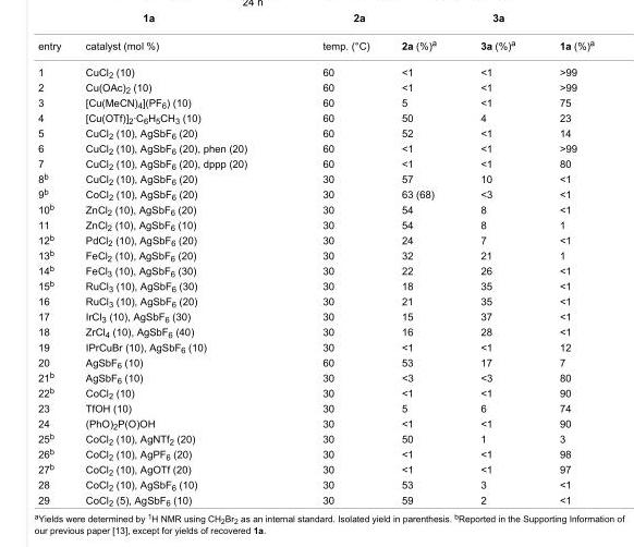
<table><tbody><tr><td>entry</td><td>catalyst (mol %)</td><td>temp. (°C)</td><td>2a (%)<sup>a</sup></td><td>3a (%)<sup>a</sup></td><td>1a (%)<sup>a</sup></td></tr><tr><td>1</td><td>CuCl<sub>2</sub> (10)</td><td>60</td><td>&lt;1</td><td>&lt;1</td><td>&gt;99</td></tr><tr><td>2</td><td>Cu(OAc)<sub>2</sub> (10)</td><td>60</td><td>&lt;1</td><td>&lt;1</td><td>&gt;99</td></tr><tr><td>3</td><td>[Cu(MeCN)<sub>4</sub>](PF<sub>6</sub>) (10)</td><td>60</td><td>5</td><td>&lt;1</td><td>75</td></tr><tr><td>4</td><td>[Cu(OTf)]<sub>2</sub>·C<sub>6</sub>H<sub>5</sub>CH<sub>3</sub> (10)</td><td>60</td><td>50</td><td>4</td><td>23</td></tr><tr><td>5</td><td>CuCl<sub>2</sub> (10), AgSbF<sub>6</sub> (20)</td><td>60</td><td>52</td><td>&lt;1</td><td>14</td></tr><tr><td>6</td><td>CuCl<sub>2</sub> (10), AgSbF<sub>6</sub> (20), phen (20)</td><td>60</td><td>&lt;1</td><td>&lt;1</td><td>&gt;99</td></tr><tr><td>7</td><td>CuCl<sub>2</sub> (10), AgSbF<sub>6</sub> (20), dppp (20)</td><td>60</td><td>&lt;1</td><td>&lt;1</td><td>80</td></tr><tr><td>8<sup>b</sup></td><td>CuCl<sub>2</sub> (10), AgSbF<sub>6</sub> (20)</td><td>30</td><td>57</td><td>10</td><td>&lt;1</td></tr><tr><td>9<sup>b</sup></td><td>CoCl<sub>2</sub> (10), AgSbF<sub>6</sub> (20)</td><td>30</td><td>63 (68)</td><td>&lt;3</td><td>&lt;1</td></tr><tr><td>10<sup>b</sup></td><td>ZnCl<sub>2</sub> (10), AgSbF<sub>6</sub> (20)</td><td>30</td><td>54</td><td>8</td><td>&lt;1</td></tr><tr><td>11</td><td>ZnCl<sub>2</sub> (10), AgSbF<sub>6</sub> (10)</td><td>30</td><td>54</td><td>8</td><td>1</td></tr><tr><td>12<sup>b</sup></td><td>PdCl<sub>2</sub> (10), AgSbF<sub>6</sub> (20)</td><td>30</td><td>24</td><td>7</td><td>&lt;1</td></tr><tr><td>13<sup>b</sup></td><td>FeCl<sub>2</sub> (10), AgSbF<sub>6</sub> (20)</td><td>30</td><td>32</td><td>21</td><td>1</td></tr><tr><td>14<sup>b</sup></td><td>FeCl<sub>3</sub> (10), AgSbF<sub>6</sub> (30)</td><td>30</td><td>22</td><td>26</td><td>&lt;1</td></tr><tr><td>15<sup>b</sup></td><td>RuCl<sub>3</sub> (10), AgSbF<sub>6</sub> (30)</td><td>30</td><td>18</td><td>35</td><td>&lt;1</td></tr><tr><td>16</td><td>RuCl<sub>3</sub> (10), AgSbF<sub>6</sub> (20)</td><td>30</td><td>21</td><td>35</td><td>&lt;1</td></tr><tr><td>17</td><td>IrCl<sub>3</sub> (10), AgSbF<sub>6</sub> (30)</td><td>30</td><td>15</td><td>37</td><td>&lt;1</td></tr><tr><td>18</td><td>ZrCl<sub>4</sub> (10), AgSbF<sub>6</sub> (40)</td><td>30</td><td>16</td><td>28</td><td>&lt;1</td></tr><tr><td>19</td><td>IPrCuBr (10), AgSbF<sub>6</sub> (10)</td><td>30</td><td>&lt;1</td><td>&lt;1</td><td>12</td></tr><tr><td>20</td><td>AgSbF<sub>6</sub> (10)</td><td>60</td><td>53</td><td>17</td><td>7</td></tr><tr><td>21<sup>b</sup></td><td>AgSbF<sub>6</sub> (10)</td><td>30</td><td>&lt;3</td><td>&lt;3</td><td>80</td></tr><tr><td>22<sup>b</sup></td><td>CoCl<sub>2</sub> (10)</td><td>30</td><td>&lt;1</td><td>&lt;1</td><td>90</td></tr><tr><td>23</td><td>TfOH (10)</td><td>30</td><td>5</td><td>6</td><td>74</td></tr><tr><td>24</td><td>(PhO)<sub>2</sub>P(O)OH</td><td>30</td><td>&lt;1</td><td>&lt;1</td><td>90</td></tr><tr><td>25<sup>b</sup></td><td>CoCl<sub>2</sub> (10), AgNTf<sub>2</sub> (20)</td><td>30</td><td>50</td><td>1</td><td>3</td></tr><tr><td>26<sup>b</sup></td><td>CoCl<sub>2</sub> (10), AgPF<sub>6</sub> (20)</td><td>30</td><td>&lt;1</td><td>&lt;1</td><td>98</td></tr><tr><td>27<sup>b</sup></td><td>CoCl<sub>2</sub> (10), AgOTf (20)</td><td>30</td><td>&lt;1</td><td>&lt;1</td><td>97</td></tr><tr><td>28</td><td>CoCl<sub>2</sub> (10), AgSbF<sub>6</sub> (10)</td><td>30</td><td>53</td><td>3</td><td>&lt;1</td></tr><tr><td>29</td><td>CoCl<sub>2</sub> (5), AgSbF<sub>6</sub> (10)</td><td>30</td><td>59</td><td>2</td><td>&lt;1</td></tr></tbody></table>